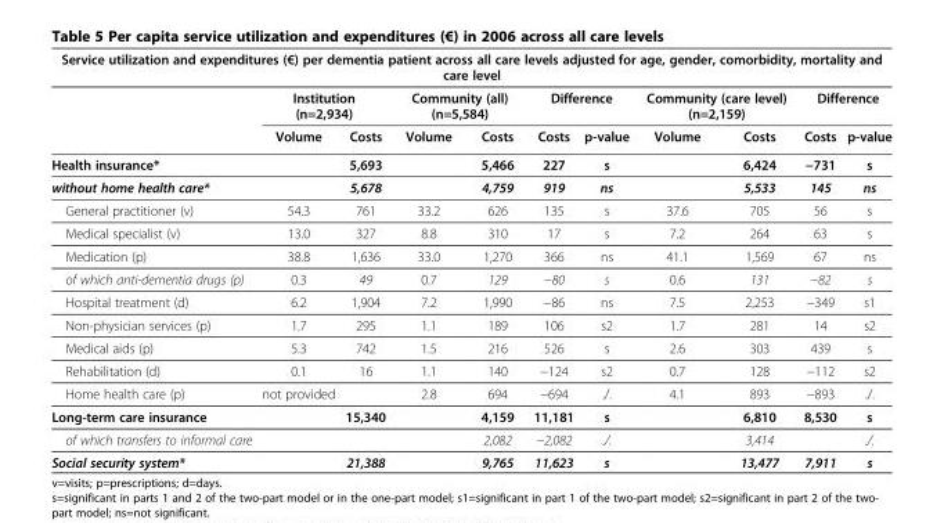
<table><thead><tr><td colspan="11">Service utilization and expenditures (€) per dementia patient across all care levels adjusted for age, gender, comorbidity, mortality and care level</td></tr><tr><td rowspan="2"></td><td colspan="2">Institution (n=2,934)</td><td colspan="2">Community (all) (n=5,584)</td><td colspan="2">Difference</td><td colspan="2">Community (care level) (n=2,159)</td><td colspan="2">Difference</td></tr><tr><td>Volume</td><td>Costs</td><td>Volume</td><td>Costs</td><td>Costs</td><td>p-value</td><td>Volume</td><td>Costs</td><td>Costs</td><td>p-value</td></tr></thead><tbody><tr><td>Health insurance*</td><td></td><td>5,693</td><td></td><td>5,466</td><td>227</td><td>s</td><td></td><td>6,424</td><td>−731</td><td>s</td></tr><tr><td>without home health care*</td><td></td><td>5,678</td><td></td><td>4,759</td><td>919</td><td>ns</td><td></td><td>5,533</td><td>145</td><td>ns</td></tr><tr><td>General practitioner (v)</td><td>54.3</td><td>761</td><td>33.2</td><td>626</td><td>135</td><td>s</td><td>37.6</td><td>705</td><td>56</td><td>s</td></tr><tr><td>Medical specialist (v)</td><td>13.0</td><td>327</td><td>8.8</td><td>310</td><td>17</td><td>s</td><td>7.2</td><td>264</td><td>63</td><td>s</td></tr><tr><td>Medication (p)</td><td>38.8</td><td>1,636</td><td>33.0</td><td>1,270</td><td>366</td><td>ns</td><td>41.1</td><td>1,569</td><td>67</td><td>ns</td></tr><tr><td>of which anti-dementia drugs (p)</td><td>0.3</td><td>49</td><td>0.7</td><td>129</td><td>−80</td><td>s</td><td>0.6</td><td>131</td><td>−82</td><td>s</td></tr><tr><td>Hospital treatment (d)</td><td>6.2</td><td>1,904</td><td>7.2</td><td>1,990</td><td>−86</td><td>ns</td><td>7.5</td><td>2,253</td><td>−349</td><td>s1</td></tr><tr><td>Non-physician services (p)</td><td>1.7</td><td>295</td><td>1.1</td><td>189</td><td>106</td><td>s2</td><td>1.7</td><td>281</td><td>14</td><td>s2</td></tr><tr><td>Medical aids (p)</td><td>5.3</td><td>742</td><td>1.5</td><td>216</td><td>526</td><td>s</td><td>2.6</td><td>303</td><td>439</td><td>s</td></tr><tr><td>Rehabilitation (d)</td><td>0.1</td><td>16</td><td>1.1</td><td>140</td><td>−124</td><td>s2</td><td>0.7</td><td>128</td><td>−112</td><td>s2</td></tr><tr><td>Home health care (p)</td><td>not provided</td><td></td><td>2.8</td><td>694</td><td>−694</td><td>./.</td><td>4.1</td><td>893</td><td>−893</td><td>./.</td></tr><tr><td>Long-term care insurance</td><td></td><td>15,340</td><td></td><td>4,159</td><td>11,181</td><td>s</td><td></td><td>6,810</td><td>8,530</td><td>s</td></tr><tr><td>of which transfers to informal care</td><td></td><td></td><td></td><td>2,082</td><td>−2,082</td><td>./.</td><td></td><td>3,414</td><td></td><td>./.</td></tr><tr><td>Social security system*</td><td></td><td>21,388</td><td></td><td>9,765</td><td>11,623</td><td>s</td><td></td><td>13,477</td><td>7,911</td><td>s</td></tr></tbody></table>